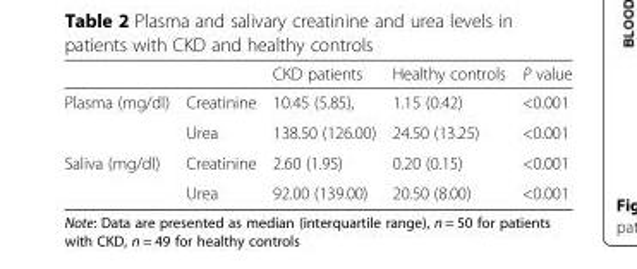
<table><thead><tr><td></td><td></td><td>CKD patients</td><td>Healthy controls</td><td>P value</td></tr></thead><tbody><tr><td rowspan="2">Plasma (mg/dl)</td><td>Creatinine</td><td>10.45 (5.85),</td><td>1.15 (0.42)</td><td>&lt;0.001</td></tr><tr><td>Urea</td><td>138.50 (126.00)</td><td>24.50 (13.25)</td><td>&lt;0.001</td></tr><tr><td rowspan="2">Saliva (mg/dl)</td><td>Creatinine</td><td>2.60 (1.95)</td><td>0.20 (0.15)</td><td>&lt;0.001</td></tr><tr><td>Urea</td><td>92.00 (139.00)</td><td>20.50 (8.00)</td><td>&lt;0.001</td></tr></tbody></table>